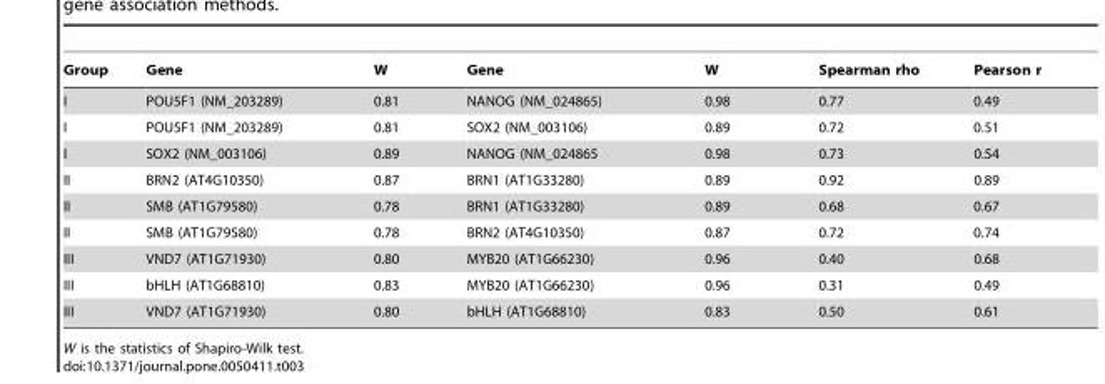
<table><thead><tr><td>Group</td><td>Gene</td><td>W</td><td>Gene</td><td>W</td><td>Spearman rho</td><td>Pearson r</td></tr></thead><tbody><tr><td>I</td><td>POU5F1 (NM_203289)</td><td>0.81</td><td>NANOG (NM_024865)</td><td>0.98</td><td>0.77</td><td>0.49</td></tr><tr><td>I</td><td>POU5F1 (NM_203289)</td><td>0.81</td><td>SOX2 (NM_003106)</td><td>0.89</td><td>0.72</td><td>0.51</td></tr><tr><td>I</td><td>SOX2 (NM_003106)</td><td>0.89</td><td>NANOG (NM_024865</td><td>0.98</td><td>0.73</td><td>0.54</td></tr><tr><td>II</td><td>BRN2 (AT4G10350)</td><td>0.87</td><td>BRN1 (AT1G33280)</td><td>0.89</td><td>0.92</td><td>0.89</td></tr><tr><td>II</td><td>SMB (AT1G79580)</td><td>0.78</td><td>BRN1 (AT1G33280)</td><td>0.89</td><td>0.68</td><td>0.67</td></tr><tr><td>II</td><td>SMB (AT1G79580)</td><td>0.78</td><td>BRN2 (AT4G10350)</td><td>0.87</td><td>0.72</td><td>0.74</td></tr><tr><td>III</td><td>VND7 (AT1G71930)</td><td>0.80</td><td>MYB20 (AT1G66230)</td><td>0.96</td><td>0.40</td><td>0.68</td></tr><tr><td>III</td><td>bHLH (AT1G68810)</td><td>0.83</td><td>MYB20 (AT1G66230)</td><td>0.96</td><td>0.31</td><td>0.49</td></tr><tr><td>III</td><td>VND7 (AT1G71930)</td><td>0.80</td><td>bHLH (AT1G68810)</td><td>0.83</td><td>0.50</td><td>0.61</td></tr></tbody></table>